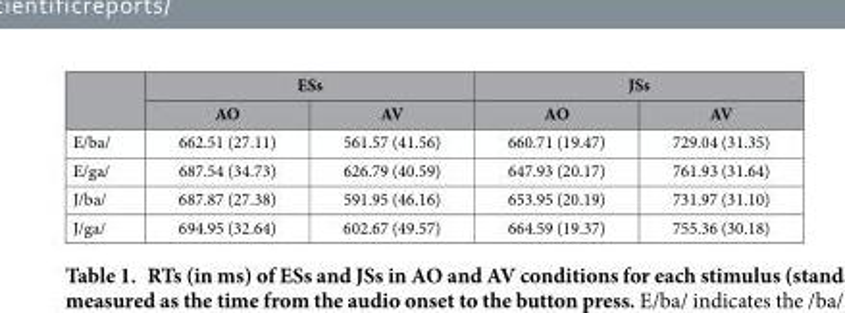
<table><thead><tr><td rowspan="2"></td><td colspan="2">ESs</td><td colspan="2">JSs</td></tr><tr><td>AO</td><td>AV</td><td>AO</td><td>AV</td></tr></thead><tbody><tr><td>E/ba/</td><td>662.51 (27.11)</td><td>561.57 (41.56)</td><td>660.71 (19.47)</td><td>729.04 (31.35)</td></tr><tr><td>E/ga/</td><td>687.54 (34.73)</td><td>626.79 (40.59)</td><td>647.93 (20.17)</td><td>761.93 (31.64)</td></tr><tr><td>J/ba/</td><td>687.87 (27.38)</td><td>591.95 (46.16)</td><td>653.95 (20.19)</td><td>731.97 (31.10)</td></tr><tr><td>J/ga/</td><td>694.95 (32.64)</td><td>602.67 (49.57)</td><td>664.59 (19.37)</td><td>755.36 (30.18)</td></tr></tbody></table>